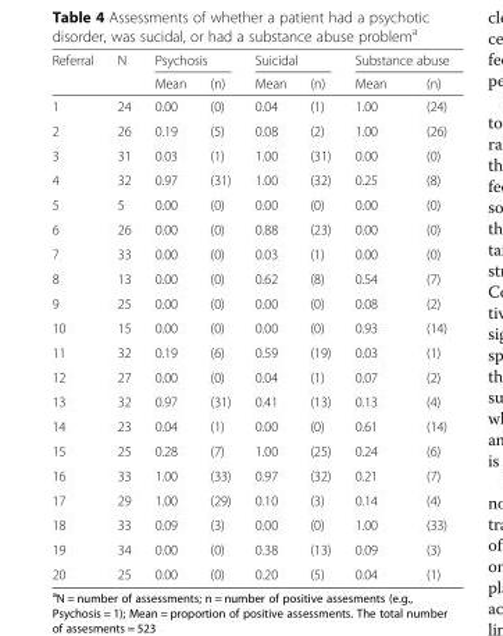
<table><thead><tr><td rowspan="2">Referral</td><td rowspan="2">N</td><td colspan="2">Psychosis</td><td colspan="2">Suicidal</td><td colspan="2">Substance abuse</td></tr><tr><td>Mean</td><td>(n)</td><td>Mean</td><td>(n)</td><td>Mean</td><td>(n)</td></tr></thead><tbody><tr><td>1</td><td>24</td><td>0.00</td><td>(0)</td><td>0.04</td><td>(1)</td><td>1.00</td><td>(24)</td></tr><tr><td>2</td><td>26</td><td>0.19</td><td>(5)</td><td>0.08</td><td>(2)</td><td>1.00</td><td>(26)</td></tr><tr><td>3</td><td>31</td><td>0.03</td><td>(1)</td><td>1.00</td><td>(31)</td><td>0.00</td><td>(0)</td></tr><tr><td>4</td><td>32</td><td>0.97</td><td>(31)</td><td>1.00</td><td>(32)</td><td>0.25</td><td>(8)</td></tr><tr><td>5</td><td>5</td><td>0.00</td><td>(0)</td><td>0.00</td><td>(0)</td><td>0.00</td><td>(0)</td></tr><tr><td>6</td><td>26</td><td>0.00</td><td>(0)</td><td>0.88</td><td>(23)</td><td>0.00</td><td>(0)</td></tr><tr><td>7</td><td>33</td><td>0.00</td><td>(0)</td><td>0.03</td><td>(1)</td><td>0.00</td><td>(0)</td></tr><tr><td>8</td><td>13</td><td>0.00</td><td>(0)</td><td>0.62</td><td>(8)</td><td>0.54</td><td>(7)</td></tr><tr><td>9</td><td>25</td><td>0.00</td><td>(0)</td><td>0.00</td><td>(0)</td><td>0.08</td><td>(2)</td></tr><tr><td>10</td><td>15</td><td>0.00</td><td>(0)</td><td>0.00</td><td>(0)</td><td>0.93</td><td>(14)</td></tr><tr><td>11</td><td>32</td><td>0.19</td><td>(6)</td><td>0.59</td><td>(19)</td><td>0.03</td><td>(1)</td></tr><tr><td>12</td><td>27</td><td>0.00</td><td>(0)</td><td>0.04</td><td>(1)</td><td>0.07</td><td>(2)</td></tr><tr><td>13</td><td>32</td><td>0.97</td><td>(31)</td><td>0.41</td><td>(13)</td><td>0.13</td><td>(4)</td></tr><tr><td>14</td><td>23</td><td>0.04</td><td>(1)</td><td>0.00</td><td>(0)</td><td>0.61</td><td>(14)</td></tr><tr><td>15</td><td>25</td><td>0.28</td><td>(7)</td><td>1.00</td><td>(25)</td><td>0.24</td><td>(6)</td></tr><tr><td>16</td><td>33</td><td>1.00</td><td>(33)</td><td>0.97</td><td>(32)</td><td>0.21</td><td>(7)</td></tr><tr><td>17</td><td>29</td><td>1.00</td><td>(29)</td><td>0.10</td><td>(3)</td><td>0.14</td><td>(4)</td></tr><tr><td>18</td><td>33</td><td>0.09</td><td>(3)</td><td>0.00</td><td>(0)</td><td>1.00</td><td>(33)</td></tr><tr><td>19</td><td>34</td><td>0.00</td><td>(0)</td><td>0.38</td><td>(13)</td><td>0.09</td><td>(3)</td></tr><tr><td>20</td><td>25</td><td>0.00</td><td>(0)</td><td>0.20</td><td>(5)</td><td>0.04</td><td>(1)</td></tr></tbody></table>